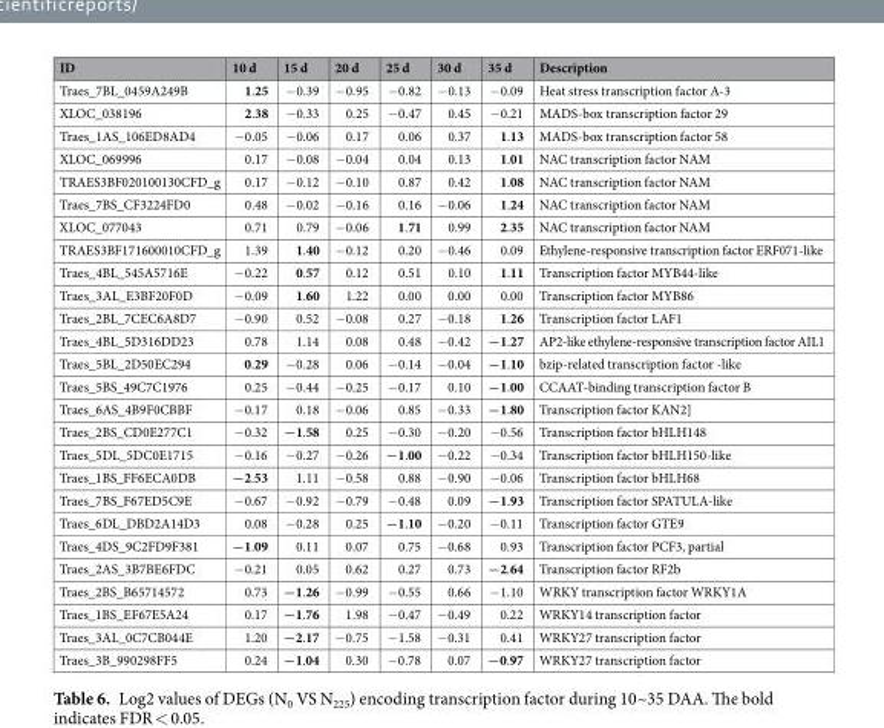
<table><thead><tr><td>ID</td><td>10 d</td><td>15 d</td><td>20 d</td><td>25 d</td><td>30 d</td><td>35 d</td><td>Description</td></tr></thead><tbody><tr><td>Traes_7BL_0459A249B</td><td>1.25</td><td>−0.39</td><td>−0.95</td><td>−0.82</td><td>−0.13</td><td>−0.09</td><td>Heat stress transcription factor A-3</td></tr><tr><td>XLOC_038196</td><td>2.38</td><td>−0.33</td><td>0.25</td><td>−0.47</td><td>0.45</td><td>−0.21</td><td>MADS-box transcription factor 29</td></tr><tr><td>Traes_1AS_106ED8AD4</td><td>−0.05</td><td>−0.06</td><td>0.17</td><td>0.06</td><td>0.37</td><td>1.13</td><td>MADS-box transcription factor 58</td></tr><tr><td>XLOC_069996</td><td>0.17</td><td>−0.08</td><td>−0.04</td><td>0.04</td><td>0.13</td><td>1.01</td><td>NAC transcription factor NAM</td></tr><tr><td>TRAES3BF020100130CFD_g</td><td>0.17</td><td>−0.12</td><td>−0.10</td><td>0.87</td><td>0.42</td><td>1.08</td><td>NAC transcription factor NAM</td></tr><tr><td>Traes_7BS_CF3224FD0</td><td>0.48</td><td>−0.02</td><td>−0.16</td><td>0.16</td><td>−0.06</td><td>1.24</td><td>NAC transcription factor NAM</td></tr><tr><td>XLOC_077043</td><td>0.71</td><td>0.79</td><td>−0.06</td><td>1.71</td><td>0.99</td><td>2.35</td><td>NAC transcription factor NAM</td></tr><tr><td>TRAES3BF171600010CFD_g</td><td>1.39</td><td>1.40</td><td>−0.12</td><td>0.20</td><td>−0.46</td><td>0.09</td><td>Ethylene-responsive transcription factor ERF071-like</td></tr><tr><td>Traes_4BL_545A5716E</td><td>−0.22</td><td>0.57</td><td>0.12</td><td>0.51</td><td>0.10</td><td>1.11</td><td>Transcription factor MYB44-like</td></tr><tr><td>Traes_3AL_E3BF20F0D</td><td>−0.09</td><td>1.60</td><td>1.22</td><td>0.00</td><td>0.00</td><td>0.00</td><td>Transcription factor MYB86</td></tr><tr><td>Traes_2BL_7CEC6A8D7</td><td>−0.90</td><td>0.52</td><td>−0.08</td><td>0.27</td><td>−0.18</td><td>1.26</td><td>Transcription factor LAF1</td></tr><tr><td>Traes_4BL_5D316DD23</td><td>0.78</td><td>1.14</td><td>0.08</td><td>0.48</td><td>−0.42</td><td>−1.27</td><td>AP2-like ethylene-responsive transcription factor AIL1</td></tr><tr><td>Traes_5BL_2D50EC294</td><td>0.29</td><td>−0.28</td><td>0.06</td><td>−0.14</td><td>−0.04</td><td>−1.10</td><td>bzip-related transcription factor -like</td></tr><tr><td>Traes_5BS_49C7C1976</td><td>0.25</td><td>−0.44</td><td>−0.25</td><td>−0.17</td><td>0.10</td><td>−1.00</td><td>CCAAT-binding transcription factor B</td></tr><tr><td>Traes_6AS_4B9F0CBBF</td><td>−0.17</td><td>0.18</td><td>−0.06</td><td>0.85</td><td>−0.33</td><td>−1.80</td><td>Transcription factor KAN2]</td></tr><tr><td>Traes_2BS_CD0E277C1</td><td>−0.32</td><td>−1.58</td><td>0.25</td><td>−0.30</td><td>−0.20</td><td>−0.56</td><td>Transcription factor bHLH148</td></tr><tr><td>Traes_5DL_5DC0E1715</td><td>−0.16</td><td>−0.27</td><td>−0.26</td><td>−1.00</td><td>−0.22</td><td>−0.34</td><td>Transcription factor bHLH150-like</td></tr><tr><td>Traes_1BS_FF6ECA0DB</td><td>−2.53</td><td>1.11</td><td>−0.58</td><td>0.88</td><td>−0.90</td><td>−0.06</td><td>Transcription factor bHLH68</td></tr><tr><td>Traes_7BS_F67ED5C9E</td><td>−0.67</td><td>−0.92</td><td>−0.79</td><td>−0.48</td><td>0.09</td><td>−1.93</td><td>Transcription factor SPATULA-like</td></tr><tr><td>Traes_6DL_DBD2A14D3</td><td>0.08</td><td>−0.28</td><td>0.25</td><td>−1.10</td><td>−0.20</td><td>−0.11</td><td>Transcription factor GTE9</td></tr><tr><td>Traes_4DS_9C2FD9F381</td><td>−1.09</td><td>0.11</td><td>0.07</td><td>0.75</td><td>−0.68</td><td>0.93</td><td>Transcription factor PCF3, partial</td></tr><tr><td>Traes_2AS_3B7BE6FDC</td><td>−0.21</td><td>0.05</td><td>0.62</td><td>0.27</td><td>0.73</td><td>−2.64</td><td>Transcription factor RF2b</td></tr><tr><td>Traes_2BS_B65714572</td><td>0.73</td><td>−1.26</td><td>−0.99</td><td>−0.55</td><td>0.66</td><td>−1.10</td><td>WRKY transcription factor WRKY1A</td></tr><tr><td>Traes_1BS_EF67E5A24</td><td>0.17</td><td>−1.76</td><td>1.98</td><td>−0.47</td><td>−0.49</td><td>0.22</td><td>WRKY14 transcription factor</td></tr><tr><td>Traes_3AL_0C7CB044E</td><td>1.20</td><td>−2.17</td><td>−0.75</td><td>−1.58</td><td>−0.31</td><td>0.41</td><td>WRKY27 transcription factor</td></tr><tr><td>Traes_3B_990298FF5</td><td>0.24</td><td>−1.04</td><td>0.30</td><td>−0.78</td><td>0.07</td><td>−0.97</td><td>WRKY27 transcription factor</td></tr></tbody></table>